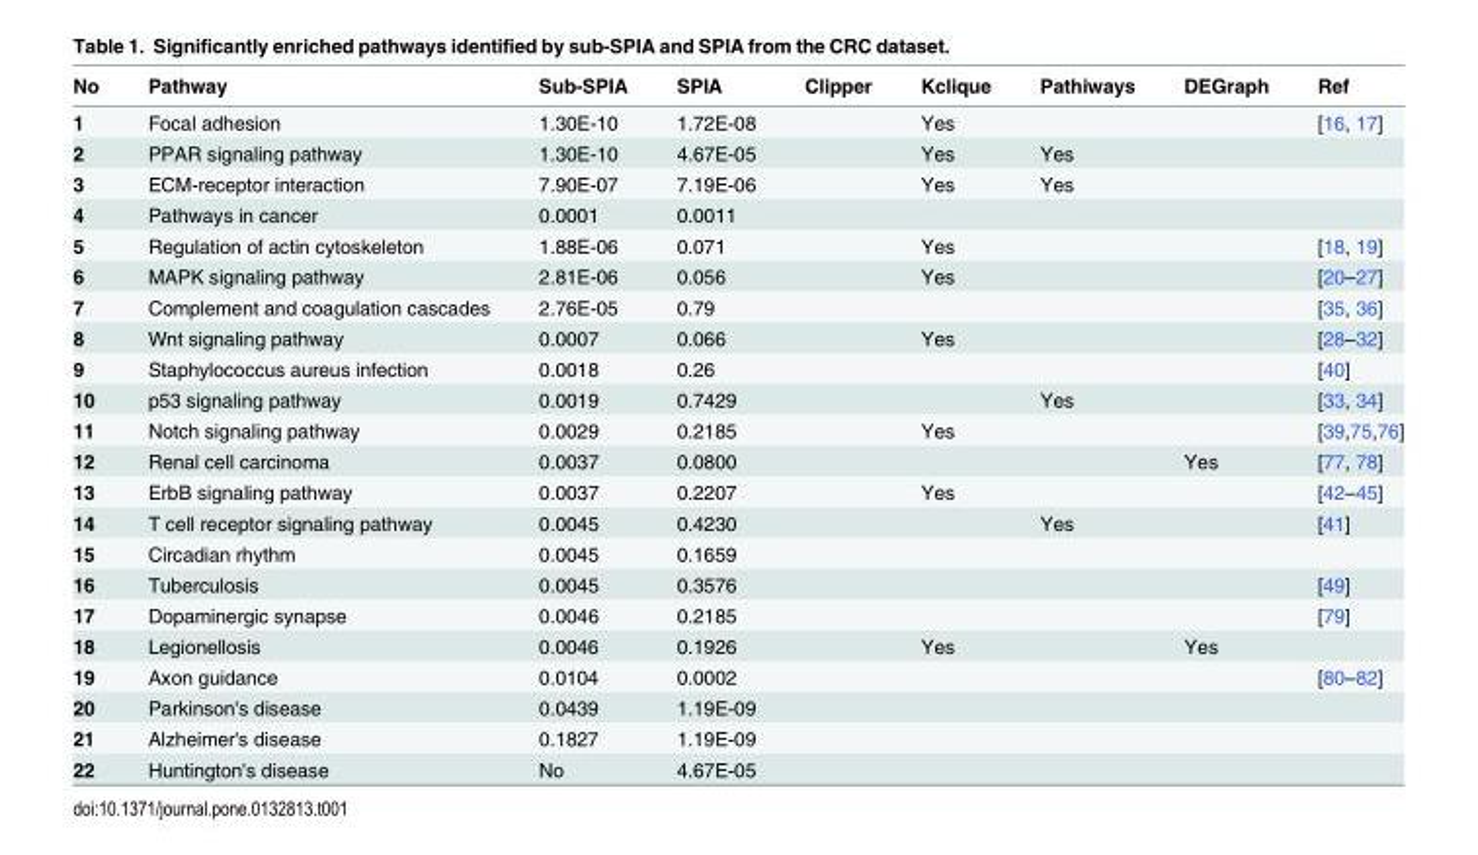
<table><thead><tr><td>No</td><td>Pathway</td><td>Sub-SPIA</td><td>SPIA</td><td>Clipper</td><td>Kclique</td><td>Pathiways</td><td>DEGraph</td><td>Ref</td></tr></thead><tbody><tr><td>1</td><td>Focal adhesion</td><td>1.30E-10</td><td>1.72E-08</td><td></td><td>Yes</td><td></td><td></td><td>[16, 17]</td></tr><tr><td>2</td><td>PPAR signaling pathway</td><td>1.30E-10</td><td>4.67E-05</td><td></td><td>Yes</td><td>Yes</td><td></td><td></td></tr><tr><td>3</td><td>ECM-receptor interaction</td><td>7.90E-07</td><td>7.19E-06</td><td></td><td>Yes</td><td>Yes</td><td></td><td></td></tr><tr><td>4</td><td>Pathways in cancer</td><td>0.0001</td><td>0.0011</td><td></td><td></td><td></td><td></td><td></td></tr><tr><td>5</td><td>Regulation of actin cytoskeleton</td><td>1.88E-06</td><td>0.071</td><td></td><td>Yes</td><td></td><td></td><td>[18, 19]</td></tr><tr><td>6</td><td>MAPK signaling pathway</td><td>2.81E-06</td><td>0.056</td><td></td><td>Yes</td><td></td><td></td><td>[20–27]</td></tr><tr><td>7</td><td>Complement and coagulation cascades</td><td>2.76E-05</td><td>0.79</td><td></td><td></td><td></td><td></td><td>[35, 36]</td></tr><tr><td>8</td><td>Wnt signaling pathway</td><td>0.0007</td><td>0.066</td><td></td><td>Yes</td><td></td><td></td><td>[28–32]</td></tr><tr><td>9</td><td>Staphylococcus aureus infection</td><td>0.0018</td><td>0.26</td><td></td><td></td><td></td><td></td><td>[40]</td></tr><tr><td>10</td><td>p53 signaling pathway</td><td>0.0019</td><td>0.7429</td><td></td><td></td><td>Yes</td><td></td><td>[33, 34]</td></tr><tr><td>11</td><td>Notch signaling pathway</td><td>0.0029</td><td>0.2185</td><td></td><td>Yes</td><td></td><td></td><td>[39,75,76]</td></tr><tr><td>12</td><td>Renal cell carcinoma</td><td>0.0037</td><td>0.0800</td><td></td><td></td><td></td><td>Yes</td><td>[77, 78]</td></tr><tr><td>13</td><td>ErbB signaling pathway</td><td>0.0037</td><td>0.2207</td><td></td><td>Yes</td><td></td><td></td><td>[42–45]</td></tr><tr><td>14</td><td>T cell receptor signaling pathway</td><td>0.0045</td><td>0.4230</td><td></td><td></td><td>Yes</td><td></td><td>[41]</td></tr><tr><td>15</td><td>Circadian rhythm</td><td>0.0045</td><td>0.1659</td><td></td><td></td><td></td><td></td><td></td></tr><tr><td>16</td><td>Tuberculosis</td><td>0.0045</td><td>0.3576</td><td></td><td></td><td></td><td></td><td>[49]</td></tr><tr><td>17</td><td>Dopaminergic synapse</td><td>0.0046</td><td>0.2185</td><td></td><td></td><td></td><td></td><td>[79]</td></tr><tr><td>18</td><td>Legionellosis</td><td>0.0046</td><td>0.1926</td><td></td><td>Yes</td><td></td><td>Yes</td><td></td></tr><tr><td>19</td><td>Axon guidance</td><td>0.0104</td><td>0.0002</td><td></td><td></td><td></td><td></td><td>[80–82]</td></tr><tr><td>20</td><td>Parkinson&#x27;s disease</td><td>0.0439</td><td>1.19E-09</td><td></td><td></td><td></td><td></td><td></td></tr><tr><td>21</td><td>Alzheimer&#x27;s disease</td><td>0.1827</td><td>1.19E-09</td><td></td><td></td><td></td><td></td><td></td></tr><tr><td>22</td><td>Huntington&#x27;s disease</td><td>No</td><td>4.67E-05</td><td></td><td></td><td></td><td></td><td></td></tr></tbody></table>